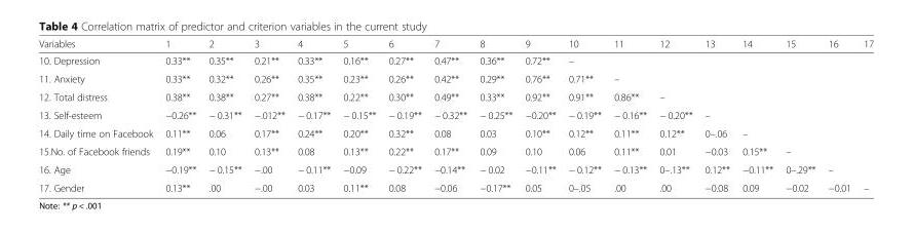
<table><thead><tr><td>Variables</td><td>1</td><td>2</td><td>3</td><td>4</td><td>5</td><td>6</td><td>7</td><td>8</td><td>9</td><td>10</td><td>11</td><td>12</td><td>13</td><td>14</td><td>15</td><td>16</td><td>17</td></tr></thead><tbody><tr><td>10. Depression</td><td>0.33**</td><td>0.35**</td><td>0.21**</td><td>0.33**</td><td>0.16**</td><td>0.27**</td><td>0.47**</td><td>0.36**</td><td>0.72**</td><td>–</td><td></td><td></td><td></td><td></td><td></td><td></td><td></td></tr><tr><td>11. Anxiety</td><td>0.33**</td><td>0.32**</td><td>0.26**</td><td>0.35**</td><td>0.23**</td><td>0.26**</td><td>0.42**</td><td>0.29**</td><td>0.76**</td><td>0.71**</td><td>–</td><td></td><td></td><td></td><td></td><td></td><td></td></tr><tr><td>12. Total distress</td><td>0.38**</td><td>0.38**</td><td>0.27**</td><td>0.38**</td><td>0.22**</td><td>0.30**</td><td>0.49**</td><td>0.33**</td><td>0.92**</td><td>0.91**</td><td>0.86**</td><td>–</td><td></td><td></td><td></td><td></td><td></td></tr><tr><td>13. Self-esteem</td><td>−0.26**</td><td>− 0.31**</td><td>−.012**</td><td>− 0.17**</td><td>− 0.15**</td><td>− 0.19**</td><td>− 0.32**</td><td>− 0.25**</td><td>−0.20**</td><td>− 0.19**</td><td>− 0.16**</td><td>− 0.20**</td><td>–</td><td></td><td></td><td></td><td></td></tr><tr><td>14. Daily time on Facebook</td><td>0.11**</td><td>0.06</td><td>0.17**</td><td>0.24**</td><td>0.20**</td><td>0.32**</td><td>0.08</td><td>0.03</td><td>0.10**</td><td>0.12**</td><td>0.11**</td><td>0.12**</td><td>0–.06</td><td>–</td><td></td><td></td><td></td></tr><tr><td>15.No. of Facebook friends</td><td>0.19**</td><td>0.10</td><td>0.13**</td><td>0.08</td><td>0.13**</td><td>0.22**</td><td>0.17**</td><td>0.09</td><td>0.10</td><td>0.06</td><td>0.11**</td><td>0.01</td><td>−0.03</td><td>0.15**</td><td>–</td><td></td><td></td></tr><tr><td>16. Age</td><td>−0.19**</td><td>− 0.15**</td><td>−.00</td><td>− 0.11**</td><td>−0.09</td><td>− 0.22**</td><td>−0.14**</td><td>− 0.02</td><td>−0.11**</td><td>− 0.12**</td><td>− 0.13**</td><td>0–.13**</td><td>0.12**</td><td>−0.11**</td><td>0–.29**</td><td>–</td><td></td></tr><tr><td>17. Gender</td><td>0.13**</td><td>.00</td><td>−.00</td><td>0.03</td><td>0.11**</td><td>0.08</td><td>−0.06</td><td>−0.17**</td><td>0.05</td><td>0–.05</td><td>.00</td><td>.00</td><td>−0.08</td><td>0.09</td><td>−0.02</td><td>−0.01</td><td>–</td></tr></tbody></table>